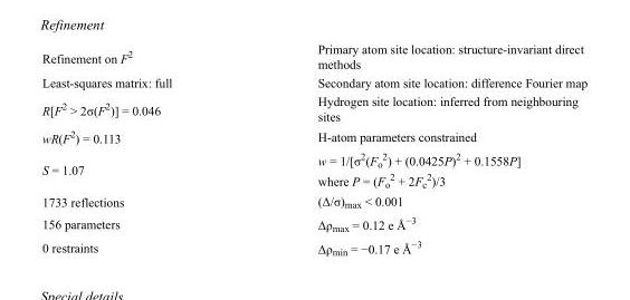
<table><tbody><tr><td>Refinement on F<sup>2</sup></td><td>Primary atom site location: structure-invariant direct methods</td></tr><tr><td>Least-squares matrix: full</td><td>Secondary atom site location: difference Fourier map</td></tr><tr><td>R[F<sup>2</sup> &gt; 2σ(F<sup>2</sup>)] = 0.046</td><td>Hydrogen site location: inferred from neighbouring sites</td></tr><tr><td>wR(F<sup>2</sup>) = 0.113</td><td>H-atom parameters constrained</td></tr><tr><td>S = 1.07</td><td>w = 1/[σ<sup>2</sup>(F<sub>o</sub> <sup>2</sup>) + (0.0425P)<sup>2</sup> + 0.1558P] where P = (F<sub>o</sub> <sup>2</sup> + 2F<sub>c</sub> <sup>2</sup>)/3</td></tr><tr><td>1733 reflections</td><td>(Δ/σ)<sub>max</sub> &lt; 0.001</td></tr><tr><td>156 parameters</td><td>Δρ<sub>max</sub> = 0.12 e Å<sup>−3</sup></td></tr><tr><td>0 restraints</td><td>Δρ<sub>min</sub> = −0.17 e Å<sup>−3</sup></td></tr></tbody></table>